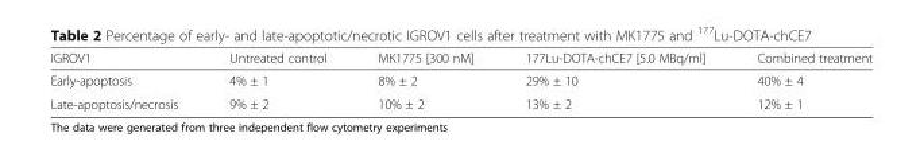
<table><thead><tr><td>IGROV1</td><td>Untreated control</td><td>MK1775 [300 nM]</td><td>177Lu-DOTA-chCE7 [5.0 MBq/ml]</td><td>Combined treatment</td></tr></thead><tbody><tr><td>Early-apoptosis</td><td>4% ± 1</td><td>8% ± 2</td><td>29% ± 10</td><td>40% ± 4</td></tr><tr><td>Late-apoptosis/necrosis</td><td>9% ± 2</td><td>10% ± 2</td><td>13% ± 2</td><td>12% ± 1</td></tr></tbody></table>